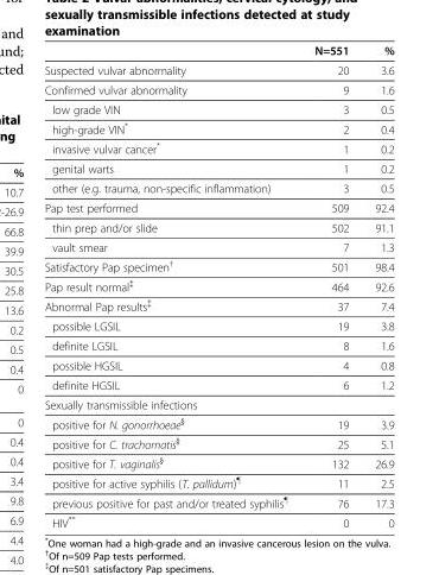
<table><thead><tr><td></td><td>N=551</td><td>%</td></tr></thead><tbody><tr><td>Suspected vulvar abnormality</td><td>20</td><td>3.6</td></tr><tr><td>Confirmed vulvar abnormality</td><td>9</td><td>1.6</td></tr><tr><td>low grade VIN</td><td>3</td><td>0.5</td></tr><tr><td>high-grade VIN*</td><td>2</td><td>0.4</td></tr><tr><td>invasive vulvar cancer*</td><td>1</td><td>0.2</td></tr><tr><td>genital warts</td><td>1</td><td>0.2</td></tr><tr><td>other (e.g. trauma, non-specific inflammation)</td><td>3</td><td>0.5</td></tr><tr><td>Pap test performed</td><td>509</td><td>92.4</td></tr><tr><td>thin prep and/or slide</td><td>502</td><td>91.1</td></tr><tr><td>vault smear</td><td>7</td><td>1.3</td></tr><tr><td>Satisfactory Pap specimen<sup>†</sup></td><td>501</td><td>98.4</td></tr><tr><td>Pap result normal<sup>‡</sup></td><td>464</td><td>92.6</td></tr><tr><td>Abnormal Pap results<sup>‡</sup></td><td>37</td><td>7.4</td></tr><tr><td>possible LGSIL</td><td>19</td><td>3.8</td></tr><tr><td>definite LGSIL</td><td>8</td><td>1.6</td></tr><tr><td>possible HGSIL</td><td>4</td><td>0.8</td></tr><tr><td>definite HGSIL</td><td>6</td><td>1.2</td></tr><tr><td colspan="3">Sexually transmissible infections</td></tr><tr><td>positive for N. gonorrhoeae<sup>§</sup></td><td>19</td><td>3.9</td></tr><tr><td>positive for C. trachomatis<sup>§</sup></td><td>25</td><td>5.1</td></tr><tr><td>positive for T. vaginalis<sup>§</sup></td><td>132</td><td>26.9</td></tr><tr><td>positive for active syphilis (T. pallidum)<sup>¶</sup></td><td>11</td><td>2.5</td></tr><tr><td>previous positive for past and/or treated syphilis<sup>¶</sup></td><td>76</td><td>17.3</td></tr><tr><td>HIV**</td><td>0</td><td>0</td></tr></tbody></table>